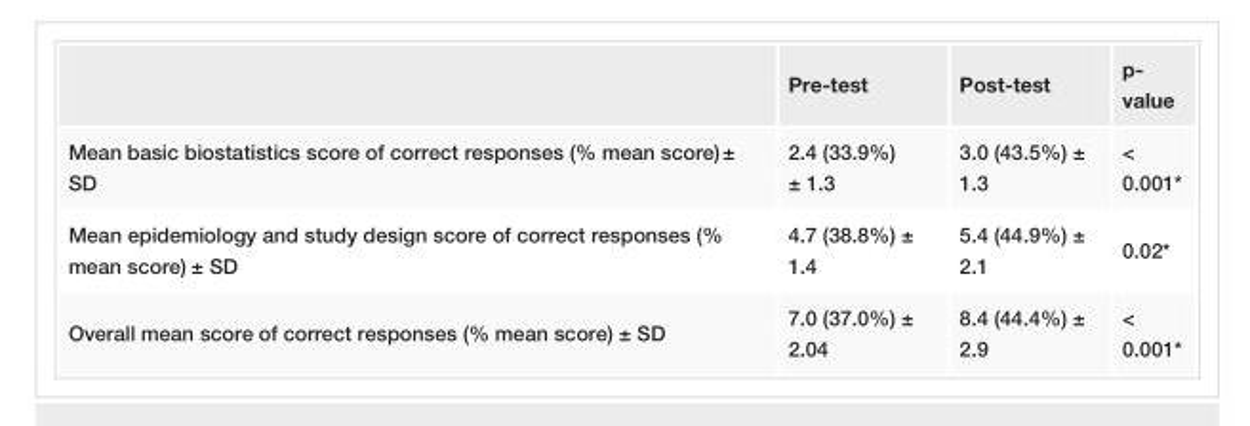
<table><thead><tr><td></td><td>Pre-test</td><td>Post-test</td><td>p- value</td></tr></thead><tbody><tr><td>Mean basic biostatistics score of correct responses (% mean score) ± SD</td><td>2.4 (33.9%) ± 1.3</td><td>3.0 (43.5%) ± 1.3</td><td>&lt; 0.001*</td></tr><tr><td>Mean epidemiology and study design score of correct responses (% mean score) ± SD</td><td>4.7 (38.8%) ± 1.4</td><td>5.4 (44.9%) ± 2.1</td><td>0.02*</td></tr><tr><td>Overall mean score of correct responses (% mean score) ± SD</td><td>7.0 (37.0%) ± 2.04</td><td>8.4 (44.4%) ± 2.9</td><td>&lt; 0.001*</td></tr></tbody></table>